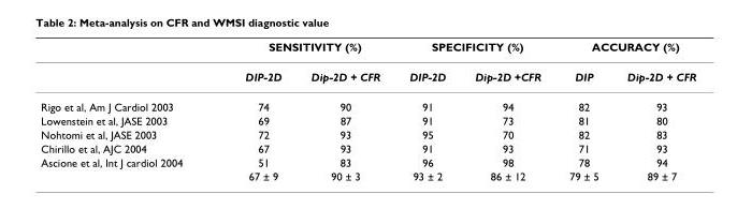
<table><thead><tr><td rowspan="2"></td><td colspan="2">SENSITIVITY (%)</td><td colspan="2">SPECIFICITY (%)</td><td colspan="2">ACCURACY (%)</td></tr><tr><td>DIP-2D</td><td>Dip-2D + CFR</td><td>DIP-2D</td><td>Dip-2D +CFR</td><td>DIP</td><td>Dip-2D + CFR</td></tr></thead><tbody><tr><td>Rigo et al, Am J Cardiol 2003</td><td>74</td><td>90</td><td>91</td><td>94</td><td>82</td><td>93</td></tr><tr><td>Lowenstein et al, JASE 2003</td><td>69</td><td>87</td><td>91</td><td>73</td><td>81</td><td>80</td></tr><tr><td>Nohtomi et al, JASE 2003</td><td>72</td><td>93</td><td>95</td><td>70</td><td>82</td><td>83</td></tr><tr><td>Chirillo et al, AJC 2004</td><td>67</td><td>93</td><td>91</td><td>93</td><td>71</td><td>93</td></tr><tr><td rowspan="2">Ascione et al, Int J cardiol 2004</td><td>51</td><td>83</td><td>96</td><td>98</td><td>78</td><td>94</td></tr><tr><td>67 ± 9</td><td>90 ± 3</td><td>93 ± 2</td><td>86 ± 12</td><td>79 ± 5</td><td>89 ± 7</td></tr></tbody></table>